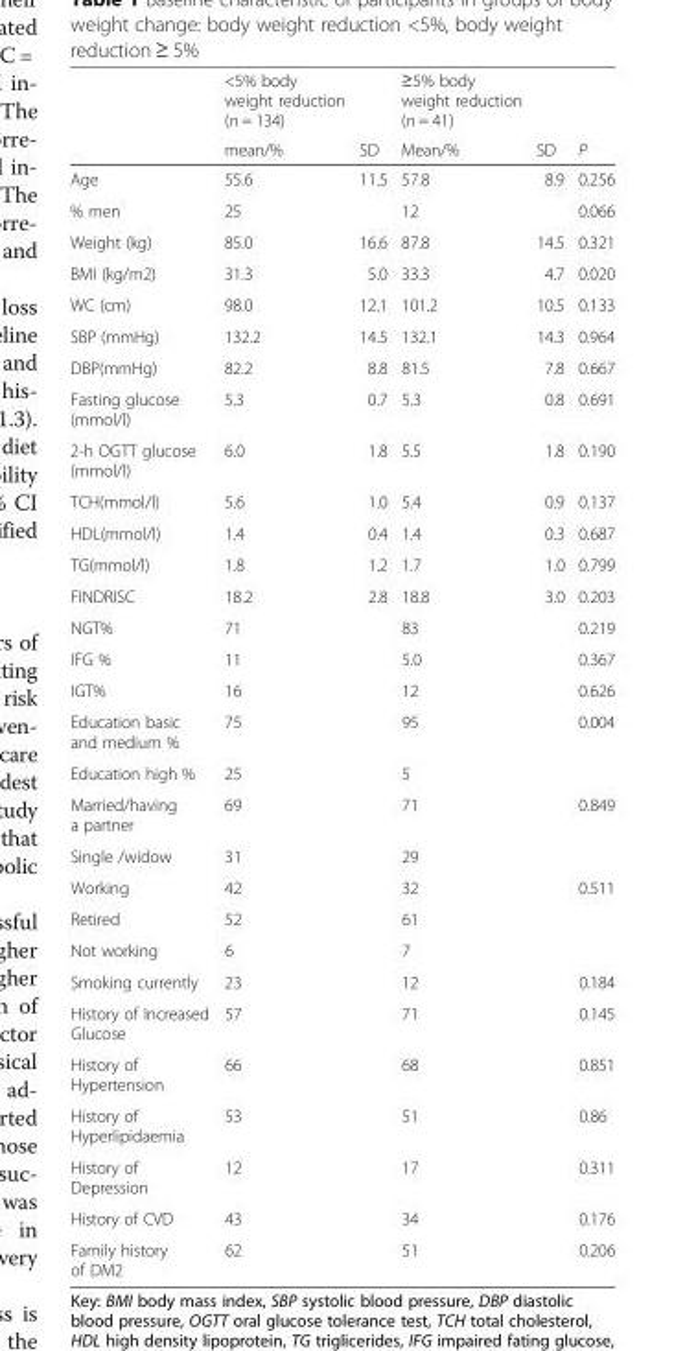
<table><thead><tr><td rowspan="2"></td><td rowspan="2">&lt;5% body weight reduction (n = 134) mean/%</td><td rowspan="2">SD</td><td rowspan="2">≥5% body weight reduction (n = 41) Mean/%</td><td rowspan="2">SD</td><td rowspan="2">P</td></tr><tr></tr></thead><tbody><tr><td>Age</td><td>55.6</td><td>11.5</td><td>57.8</td><td>8.9</td><td>0.256</td></tr><tr><td>% men</td><td>25</td><td></td><td>12</td><td></td><td>0.066</td></tr><tr><td>Weight (kg)</td><td>85.0</td><td>16.6</td><td>87.8</td><td>14.5</td><td>0.321</td></tr><tr><td>BMI (kg/m2)</td><td>31.3</td><td>5.0</td><td>33.3</td><td>4.7</td><td>0.020</td></tr><tr><td>WC (cm)</td><td>98.0</td><td>12.1</td><td>101.2</td><td>10.5</td><td>0.133</td></tr><tr><td>SBP (mmHg)</td><td>132.2</td><td>14.5</td><td>132.1</td><td>14.3</td><td>0.964</td></tr><tr><td>DBP(mmHg)</td><td>82.2</td><td>8.8</td><td>81.5</td><td>7.8</td><td>0.667</td></tr><tr><td>Fasting glucose (mmol/l)</td><td>5.3</td><td>0.7</td><td>5.3</td><td>0.8</td><td>0.691</td></tr><tr><td>2-h OGTT glucose (mmol/l)</td><td>6.0</td><td>1.8</td><td>5.5</td><td>1.8</td><td>0.190</td></tr><tr><td>TCH(mmol/l)</td><td>5.6</td><td>1.0</td><td>5.4</td><td>0.9</td><td>0.137</td></tr><tr><td>HDL(mmol/l)</td><td>1.4</td><td>0.4</td><td>1.4</td><td>0.3</td><td>0.687</td></tr><tr><td>TG(mmol/l)</td><td>1.8</td><td>1.2</td><td>1.7</td><td>1.0</td><td>0.799</td></tr><tr><td>FINDRISC</td><td>18.2</td><td>2.8</td><td>18.8</td><td>3.0</td><td>0.203</td></tr><tr><td>NGT%</td><td>71</td><td></td><td>83</td><td></td><td>0.219</td></tr><tr><td>IFG %</td><td>11</td><td></td><td>5.0</td><td></td><td>0.367</td></tr><tr><td>IGT%</td><td>16</td><td></td><td>12</td><td></td><td>0.626</td></tr><tr><td>Education basic and medium %</td><td>75</td><td></td><td>95</td><td></td><td rowspan="2">0.004</td></tr><tr><td>Education high %</td><td>25</td><td></td><td>5</td><td></td></tr><tr><td>Married/having a partner</td><td>69</td><td></td><td>71</td><td></td><td rowspan="2">0.849</td></tr><tr><td>Single /widow</td><td>31</td><td></td><td>29</td><td></td></tr><tr><td>Working</td><td>42</td><td></td><td>32</td><td></td><td rowspan="3">0.511</td></tr><tr><td>Retired</td><td>52</td><td></td><td>61</td><td></td></tr><tr><td>Not working</td><td>6</td><td></td><td>7</td><td></td></tr><tr><td>Smoking currently</td><td>23</td><td></td><td>12</td><td></td><td>0.184</td></tr><tr><td>History of Increased Glucose</td><td>57</td><td></td><td>71</td><td></td><td>0.145</td></tr><tr><td>History of Hypertension</td><td>66</td><td></td><td>68</td><td></td><td>0.851</td></tr><tr><td>History of Hyperlipidaemia</td><td>53</td><td></td><td>51</td><td></td><td>0.86</td></tr><tr><td>History of Depression</td><td>12</td><td></td><td>17</td><td></td><td>0.311</td></tr><tr><td>History of CVD</td><td>43</td><td></td><td>34</td><td></td><td>0.176</td></tr><tr><td>Family history of DM2</td><td>62</td><td></td><td>51</td><td></td><td>0.206</td></tr></tbody></table>